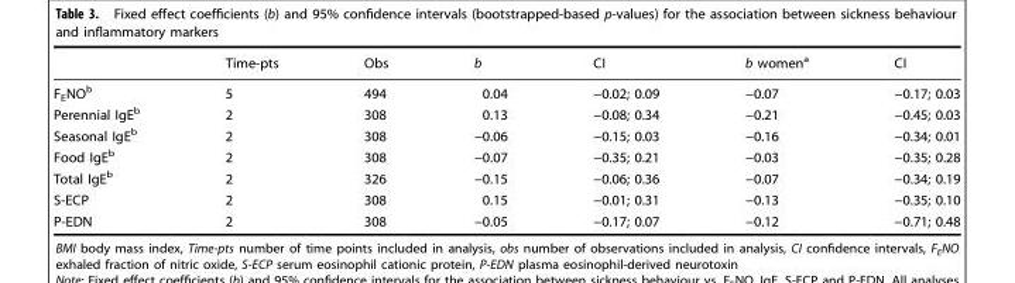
<table><thead><tr><td></td><td>Time-pts</td><td>Obs</td><td>b</td><td>CI</td><td>b women<sup>a</sup></td><td>CI</td></tr></thead><tbody><tr><td>F<sub>E</sub>NO<sup>b</sup></td><td>5</td><td>494</td><td>0.04</td><td>−0.02; 0.09</td><td>−0.07</td><td>−0.17; 0.03</td></tr><tr><td>Perennial IgE<sup>b</sup></td><td>2</td><td>308</td><td>0.13</td><td>−0.08; 0.34</td><td>−0.21</td><td>−0.45; 0.03</td></tr><tr><td>Seasonal IgE<sup>b</sup></td><td>2</td><td>308</td><td>−0.06</td><td>−0.15; 0.03</td><td>−0.16</td><td>−0.34; 0.01</td></tr><tr><td>Food IgE<sup>b</sup></td><td>2</td><td>308</td><td>−0.07</td><td>−0.35; 0.21</td><td>−0.03</td><td>−0.35; 0.28</td></tr><tr><td>Total IgE<sup>b</sup></td><td>2</td><td>326</td><td>−0.15</td><td>−0.06; 0.36</td><td>−0.07</td><td>−0.34; 0.19</td></tr><tr><td>S-ECP</td><td>2</td><td>308</td><td>0.15</td><td>−0.01; 0.31</td><td>−0.13</td><td>−0.35; 0.10</td></tr><tr><td>P-EDN</td><td>2</td><td>308</td><td>−0.05</td><td>−0.17; 0.07</td><td>−0.12</td><td>−0.71; 0.48</td></tr></tbody></table>